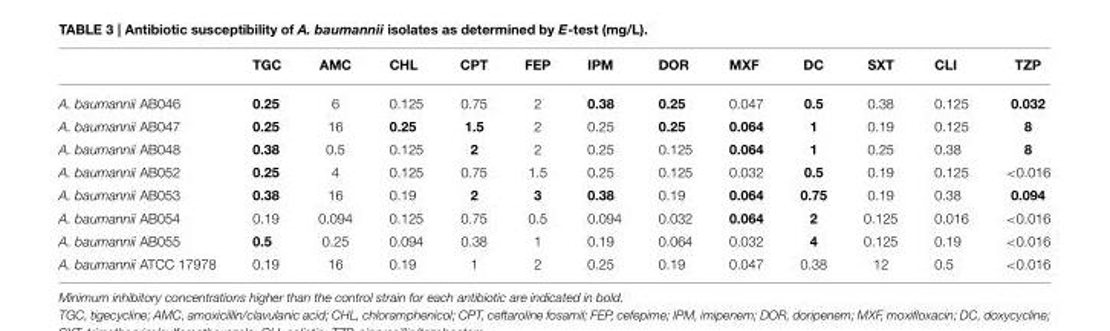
<table><thead><tr><td></td><td>TGC</td><td>AMC</td><td>CHL</td><td>CPT</td><td>FEP</td><td>IPM</td><td>DOR</td><td>MXF</td><td>DC</td><td>SXT</td><td>CLI</td><td>TZP</td></tr></thead><tbody><tr><td>A. baumannii AB046</td><td>0.25</td><td>6</td><td>0.125</td><td>0.75</td><td>2</td><td>0.38</td><td>0.25</td><td>0.047</td><td>0.5</td><td>0.38</td><td>0.125</td><td>0.032</td></tr><tr><td>A. baumannii AB047</td><td>0.25</td><td>16</td><td>0.25</td><td>1.5</td><td>2</td><td>0.25</td><td>0.25</td><td>0.064</td><td>1</td><td>0.19</td><td>0.125</td><td>8</td></tr><tr><td>A. baumannii AB048</td><td>0.38</td><td>0.5</td><td>0.125</td><td>2</td><td>2</td><td>0.25</td><td>0.125</td><td>0.064</td><td>1</td><td>0.25</td><td>0.38</td><td>8</td></tr><tr><td>A. baumannii AB052</td><td>0.25</td><td>4</td><td>0.125</td><td>0.75</td><td>1.5</td><td>0.25</td><td>0.125</td><td>0.032</td><td>0.5</td><td>0.19</td><td>0.125</td><td>&lt;0.016</td></tr><tr><td>A. baumannii AB053</td><td>0.38</td><td>16</td><td>0.19</td><td>2</td><td>3</td><td>0.38</td><td>0.19</td><td>0.064</td><td>0.75</td><td>0.19</td><td>0.38</td><td>0.094</td></tr><tr><td>A. baumannii AB054</td><td>0.19</td><td>0.094</td><td>0.125</td><td>0.75</td><td>0.5</td><td>0.094</td><td>0.032</td><td>0.064</td><td>2</td><td>0.125</td><td>0.016</td><td>&lt;0.016</td></tr><tr><td>A. baumannii AB055</td><td>0.5</td><td>0.25</td><td>0.094</td><td>0.38</td><td>1</td><td>0.19</td><td>0.064</td><td>0.032</td><td>4</td><td>0.125</td><td>0.19</td><td>&lt;0.016</td></tr><tr><td>A. baumannii ATCC 17978</td><td>0.19</td><td>16</td><td>0.19</td><td>1</td><td>2</td><td>0.25</td><td>0.19</td><td>0.047</td><td>0.38</td><td>12</td><td>0.5</td><td>&lt;0.016</td></tr></tbody></table>